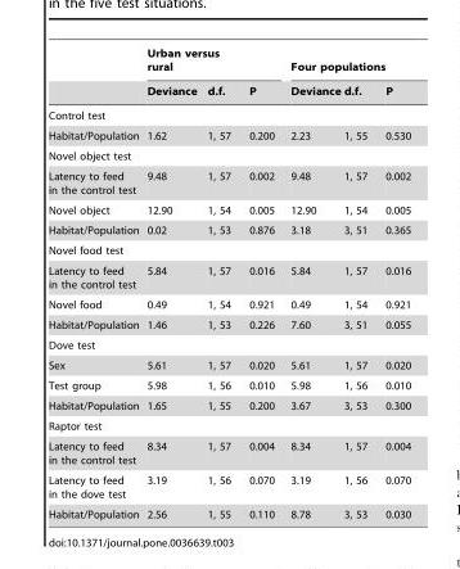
<table><thead><tr><td rowspan="2"></td><td colspan="3">Urban versus rural</td><td colspan="3">Four populations</td></tr><tr><td>Deviance</td><td>d.f.</td><td>P</td><td>Deviance</td><td>d.f.</td><td>P</td></tr></thead><tbody><tr><td colspan="7">Control test</td></tr><tr><td>Habitat/Population</td><td>1.62</td><td>1, 57</td><td>0.200</td><td>2.23</td><td>1, 55</td><td>0.530</td></tr><tr><td colspan="7">Novel object test</td></tr><tr><td>Latency to feed in the control test</td><td>9.48</td><td>1, 57</td><td>0.002</td><td>9.48</td><td>1, 57</td><td>0.002</td></tr><tr><td>Novel object</td><td>12.90</td><td>1, 54</td><td>0.005</td><td>12.90</td><td>1, 54</td><td>0.005</td></tr><tr><td>Habitat/Population</td><td>0.02</td><td>1, 53</td><td>0.876</td><td>3.18</td><td>3, 51</td><td>0.365</td></tr><tr><td colspan="7">Novel food test</td></tr><tr><td>Latency to feed in the control test</td><td>5.84</td><td>1, 57</td><td>0.016</td><td>5.84</td><td>1, 57</td><td>0.016</td></tr><tr><td>Novel food</td><td>0.49</td><td>1, 54</td><td>0.921</td><td>0.49</td><td>1, 54</td><td>0.921</td></tr><tr><td>Habitat/Population</td><td>1.46</td><td>1, 53</td><td>0.226</td><td>7.60</td><td>3, 51</td><td>0.055</td></tr><tr><td colspan="7">Dove test</td></tr><tr><td>Sex</td><td>5.61</td><td>1, 57</td><td>0.020</td><td>5.61</td><td>1, 57</td><td>0.020</td></tr><tr><td>Test group</td><td>5.98</td><td>1, 56</td><td>0.010</td><td>5.98</td><td>1, 56</td><td>0.010</td></tr><tr><td>Habitat/Population</td><td>1.65</td><td>1, 55</td><td>0.200</td><td>3.67</td><td>3, 53</td><td>0.300</td></tr><tr><td colspan="7">Raptor test</td></tr><tr><td>Latency to feed in the control test</td><td>8.34</td><td>1, 57</td><td>0.004</td><td>8.34</td><td>1, 57</td><td>0.004</td></tr><tr><td>Latency to feed in the dove test</td><td>3.19</td><td>1, 56</td><td>0.070</td><td>3.19</td><td>1, 56</td><td>0.070</td></tr><tr><td>Habitat/Population</td><td>2.56</td><td>1, 55</td><td>0.110</td><td>8.78</td><td>3, 53</td><td>0.030</td></tr></tbody></table>